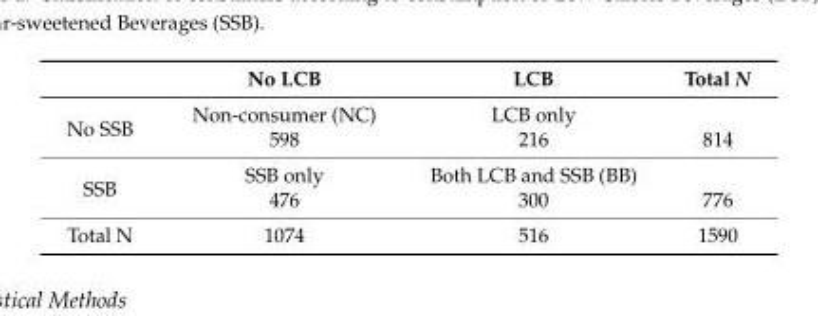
<table><thead><tr><td></td><td>No LCB</td><td>LCB</td><td>Total N</td></tr></thead><tbody><tr><td rowspan="2">No SSB</td><td>Non-consumer (NC)</td><td>LCB only</td><td></td></tr><tr><td>598</td><td>216</td><td>814</td></tr><tr><td rowspan="2">SSB</td><td>SSB only</td><td>Both LCB and SSB (BB)</td><td></td></tr><tr><td>476</td><td>300</td><td>776</td></tr><tr><td>Total N</td><td>1074</td><td>516</td><td>1590</td></tr></tbody></table>